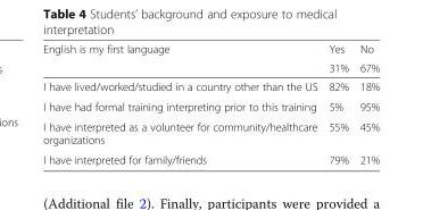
<table><thead><tr><td rowspan="2">English is my first language</td><td rowspan="2">Yes 31%</td><td rowspan="2">No 67%</td></tr><tr></tr></thead><tbody><tr><td>I have lived/worked/studied in a country other than the US</td><td>82%</td><td>18%</td></tr><tr><td>I have had formal training interpreting prior to this training</td><td>5%</td><td>95%</td></tr><tr><td>I have interpreted as a volunteer for community/healthcare organizations</td><td>55%</td><td>45%</td></tr><tr><td>I have interpreted for family/friends</td><td>79%</td><td>21%</td></tr></tbody></table>